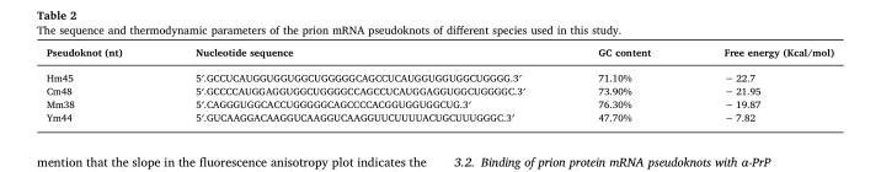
<table><thead><tr><td>Pseudoknot (nt)</td><td>Nucleotide sequence</td><td>GC content</td><td>Free energy (Kcal/mol)</td></tr></thead><tbody><tr><td>Hm45</td><td>5′.GCCUCAUGGUGGUGGCUGGGGGCAGCCUCAUGGUGGUGGCUGGGG.3′</td><td>71.10%</td><td>− 22.7</td></tr><tr><td>Cm48</td><td>5′.GCCCCAUGGAGGUGGCUGGGGCCAGCCUCAUGGAGGUGGCUGGGGC.3′</td><td>73.90%</td><td>− 21.95</td></tr><tr><td>Mm38</td><td>5′.CAGGGUGGCACCUGGGGGCAGCCCCACGGUGGUGGCUG.3′</td><td>76.30%</td><td>− 19.87</td></tr><tr><td>Ym44</td><td>5′.GUCAAGGACAAGGUCAAGGUCAAGGUUCUUUUACUGCUUUGGGC.3′</td><td>47.70%</td><td>− 7.82</td></tr></tbody></table>